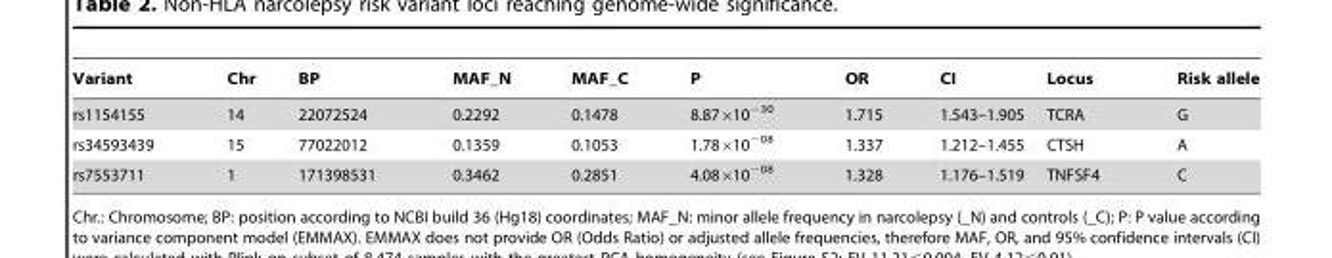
<table><thead><tr><td>Variant</td><td>Chr</td><td>BP</td><td>MAF_N</td><td>MAF_C</td><td>P</td><td>OR</td><td>CI</td><td>Locus</td><td>Risk allele</td></tr></thead><tbody><tr><td>rs1154155</td><td>14</td><td>22072524</td><td>0.2292</td><td>0.1478</td><td>8.87×10<sup>−30</sup></td><td>1.715</td><td>1.543–1.905</td><td>TCRA</td><td>G</td></tr><tr><td>rs34593439</td><td>15</td><td>77022012</td><td>0.1359</td><td>0.1053</td><td>1.78×10<sup>−08</sup></td><td>1.337</td><td>1.212–1.455</td><td>CTSH</td><td>A</td></tr><tr><td>rs7553711</td><td>1</td><td>171398531</td><td>0.3462</td><td>0.2851</td><td>4.08×10<sup>−08</sup></td><td>1.328</td><td>1.176–1.519</td><td>TNFSF4</td><td>C</td></tr></tbody></table>